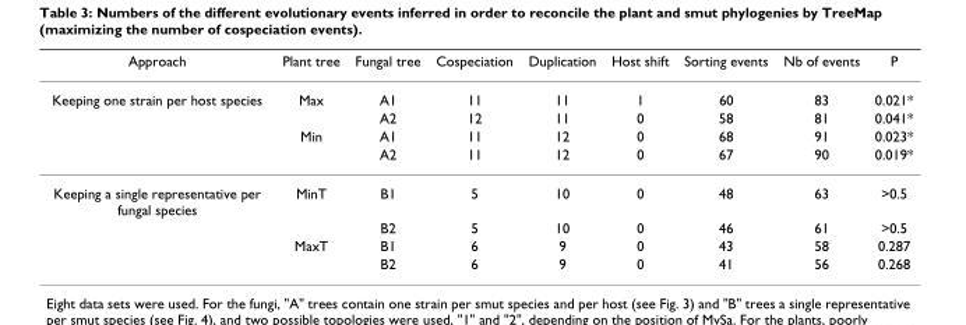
<table><thead><tr><td>Approach</td><td>Plant tree</td><td>Fungal tree</td><td>Cospeciation</td><td>Duplication</td><td>Host shift</td><td>Sorting events</td><td>Nb of events</td><td>P</td></tr></thead><tbody><tr><td rowspan="4">Keeping one strain per host species</td><td>Max</td><td>A1</td><td>11</td><td>11</td><td>1</td><td>60</td><td>83</td><td>0.021*</td></tr><tr><td></td><td>A2</td><td>12</td><td>11</td><td>0</td><td>58</td><td>81</td><td>0.041*</td></tr><tr><td>Min</td><td>A1</td><td>11</td><td>12</td><td>0</td><td>68</td><td>91</td><td>0.023*</td></tr><tr><td></td><td>A2</td><td>11</td><td>12</td><td>0</td><td>67</td><td>90</td><td>0.019*</td></tr><tr><td rowspan="4">Keeping a single representative per fungal species</td><td>MinT</td><td>B1</td><td>5</td><td>10</td><td>0</td><td>48</td><td>63</td><td>&gt;0.5</td></tr><tr><td></td><td>B2</td><td>5</td><td>10</td><td>0</td><td>46</td><td>61</td><td>&gt;0.5</td></tr><tr><td>MaxT</td><td>B1</td><td>6</td><td>9</td><td>0</td><td>43</td><td>58</td><td>0.287</td></tr><tr><td></td><td>B2</td><td>6</td><td>9</td><td>0</td><td>41</td><td>56</td><td>0.268</td></tr></tbody></table>